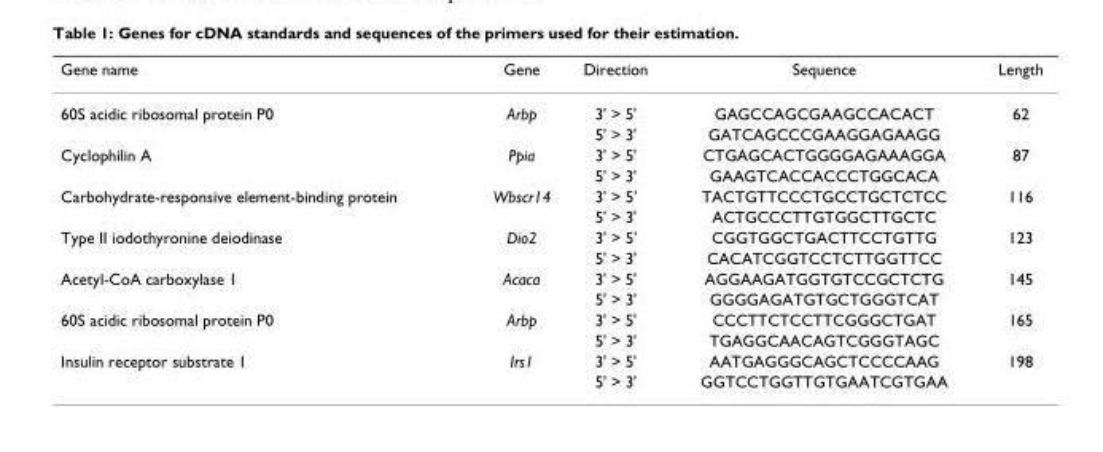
<table><thead><tr><td>Gene name</td><td>Gene</td><td>Direction</td><td>Sequence</td><td>Length</td></tr></thead><tbody><tr><td rowspan="2">60S acidic ribosomal protein P0</td><td>Arbp</td><td>3&#x27; &gt; 5&#x27;</td><td>GAGCCAGCGAAGCCACACT</td><td>62</td></tr><tr><td></td><td>5&#x27; &gt; 3&#x27;</td><td>GATCAGCCCGAAGGAGAAGG</td><td></td></tr><tr><td rowspan="2">Cyclophilin A</td><td>Ppia</td><td>3&#x27; &gt; 5&#x27;</td><td>CTGAGCACTGGGGAGAAAGGA</td><td>87</td></tr><tr><td></td><td>5&#x27; &gt; 3&#x27;</td><td>GAAGTCACCACCCTGGCACA</td><td></td></tr><tr><td rowspan="2">Carbohydrate-responsive element-binding protein</td><td>Wbscr14</td><td>3&#x27; &gt; 5&#x27;</td><td>TACTGTTCCCTGCCTGCTCTCC</td><td>116</td></tr><tr><td></td><td>5&#x27; &gt; 3&#x27;</td><td>ACTGCCCTTGTGGCTTGCTC</td><td></td></tr><tr><td rowspan="2">Type II iodothyronine deiodinase</td><td>Dio2</td><td>3&#x27; &gt; 5&#x27;</td><td>CGGTGGCTGACTTCCTGTTG</td><td>123</td></tr><tr><td></td><td>5&#x27; &gt; 3&#x27;</td><td>CACATCGGTCCTCTTGGTTCC</td><td></td></tr><tr><td rowspan="2">Acetyl-CoA carboxylase 1</td><td>Acaca</td><td>3&#x27; &gt; 5&#x27;</td><td>AGGAAGATGGTGTCCGCTCTG</td><td>145</td></tr><tr><td></td><td>5&#x27; &gt; 3&#x27;</td><td>GGGGAGATGTGCTGGGTCAT</td><td></td></tr><tr><td rowspan="2">60S acidic ribosomal protein P0</td><td>Arbp</td><td>3&#x27; &gt; 5&#x27;</td><td>CCCTTCTCCTTCGGGCTGAT</td><td>165</td></tr><tr><td></td><td>5&#x27; &gt; 3&#x27;</td><td>TGAGGCAACAGTCGGGTAGC</td><td></td></tr><tr><td rowspan="2">Insulin receptor substrate 1</td><td>Irs1</td><td>3&#x27; &gt; 5&#x27;</td><td>AATGAGGGCAGCTCCCCAAG</td><td>198</td></tr><tr><td></td><td>5&#x27; &gt; 3&#x27;</td><td>GGTCCTGGTTGTGAATCGTGAA</td><td></td></tr></tbody></table>